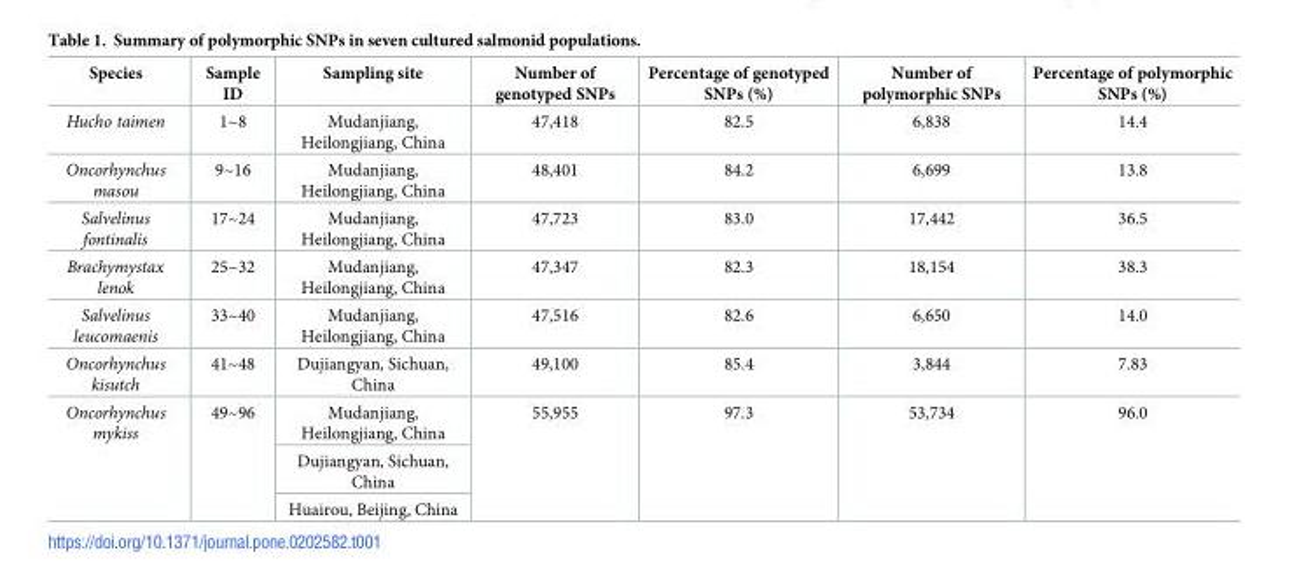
<table><thead><tr><td>Species</td><td>Sample ID</td><td>Sampling site</td><td>Number of genotyped SNPs</td><td>Percentage of genotyped SNPs (%)</td><td>Number of polymorphic SNPs</td><td>Percentage of polymorphic SNPs (%)</td></tr></thead><tbody><tr><td>Hucho taimen</td><td>1~8</td><td>Mudanjiang, Heilongjiang, China</td><td>47,418</td><td>82.5</td><td>6,838</td><td>14.4</td></tr><tr><td>Oncorhynchus masou</td><td>9~16</td><td>Mudanjiang, Heilongjiang, China</td><td>48,401</td><td>84.2</td><td>6,699</td><td>13.8</td></tr><tr><td>Salvelinus fontinalis</td><td>17~24</td><td>Mudanjiang, Heilongjiang, China</td><td>47,723</td><td>83.0</td><td>17,442</td><td>36.5</td></tr><tr><td>Brachymystax lenok</td><td>25~32</td><td>Mudanjiang, Heilongjiang, China</td><td>47,347</td><td>82.3</td><td>18,154</td><td>38.3</td></tr><tr><td>Salvelinus leucomaenis</td><td>33~40</td><td>Mudanjiang, Heilongjiang, China</td><td>47,516</td><td>82.6</td><td>6,650</td><td>14.0</td></tr><tr><td>Oncorhynchus kisutch</td><td>41~48</td><td>Dujiangyan, Sichuan, China</td><td>49,100</td><td>85.4</td><td>3,844</td><td>7.83</td></tr><tr><td rowspan="3">Oncorhynchus mykiss</td><td rowspan="3">49~96</td><td>Mudanjiang, Heilongjiang, China</td><td rowspan="3">55,955</td><td rowspan="3">97.3</td><td rowspan="3">53,734</td><td rowspan="3">96.0</td></tr><tr><td>Dujiangyan, Sichuan, China</td></tr><tr><td>Huairou, Beijing, China</td></tr></tbody></table>